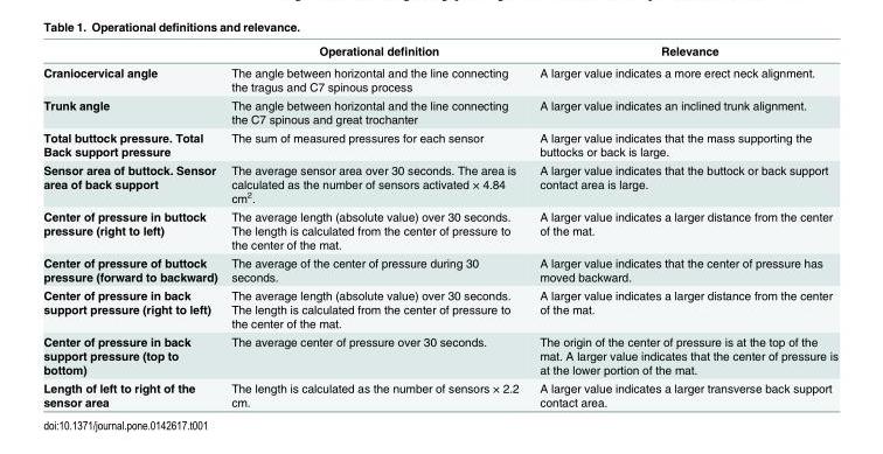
<table><thead><tr><td></td><td>Operational definition</td><td>Relevance</td></tr></thead><tbody><tr><td>Craniocervical angle</td><td>The angle between horizontal and the line connecting the tragus and C7 spinous process</td><td>A larger value indicates a more erect neck alignment.</td></tr><tr><td>Trunk angle</td><td>The angle between horizontal and the line connecting the C7 spinous and great trochanter</td><td>A larger value indicates an inclined trunk alignment.</td></tr><tr><td>Total buttock pressure. Total Back support pressure</td><td>The sum of measured pressures for each sensor</td><td>A larger value indicates that the mass supporting the buttocks or back is large.</td></tr><tr><td>Sensor area of buttock. Sensor area of back support</td><td>The average sensor area over 30 seconds. The area is calculated as the number of sensors activated × 4.84 cm<sup>2</sup>.</td><td>A larger value indicates that the buttock or back support contact area is large.</td></tr><tr><td>Center of pressure in buttock pressure (right to left)</td><td>The average length (absolute value) over 30 seconds. The length is calculated from the center of pressure to the center of the mat.</td><td>A larger value indicates a larger distance from the center of the mat.</td></tr><tr><td>Center of pressure of buttock pressure (forward to backward)</td><td>The average of the center of pressure during 30 seconds.</td><td>A larger value indicates that the center of pressure has moved backward.</td></tr><tr><td>Center of pressure in back support pressure (right to left)</td><td>The average length (absolute value) over 30 seconds. The length is calculated from the center of pressure to the center of the mat.</td><td>A larger value indicates a larger distance from the center of the mat.</td></tr><tr><td>Center of pressure in back support pressure (top to bottom)</td><td>The average center of pressure over 30 seconds.</td><td>The origin of the center of pressure is at the top of the mat. A larger value indicates that the center of pressure is at the lower portion of the mat.</td></tr><tr><td>Length of left to right of the sensor area</td><td>The length is calculated as the number of sensors × 2.2 cm.</td><td>A larger value indicates a larger transverse back support contact area.</td></tr></tbody></table>